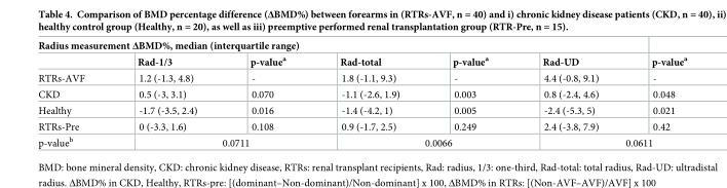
<table><thead><tr><td colspan="6">Radius measurement ΔBMD%, median (interquartile range)</td><td rowspan="2">p-value<sup>a</sup></td></tr><tr><td></td><td>Rad-1/3</td><td>p-value<sup>a</sup></td><td>Rad-total</td><td>p-value<sup>a</sup></td><td>Rad-UD</td></tr></thead><tbody><tr><td>RTRs-AVF</td><td>1.2 (-1.3, 4.8)</td><td>-</td><td>1.8 (-1.1, 9.3)</td><td>-</td><td>4.4 (-0.8, 9.1)</td><td>-</td></tr><tr><td>CKD</td><td>0.5 (-3, 3.1)</td><td>0.070</td><td>-1.1 (-2.6, 1.9)</td><td>0.003</td><td>0.8 (-2.4, 4.6)</td><td>0.048</td></tr><tr><td>Healthy</td><td>-1.7 (-3.5, 2.4)</td><td>0.016</td><td>-1.4 (-4.2, 1)</td><td>0.005</td><td>-2.4 (-5.3, 5)</td><td>0.021</td></tr><tr><td>RTRs-Pre</td><td>0 (-3.3, 1.6)</td><td>0.108</td><td>0.9 (-1.7, 2.5)</td><td>0.249</td><td>2.4 (-3.8, 7.9)</td><td>0.42</td></tr><tr><td>p-value<sup>b</sup></td><td colspan="2">0.0711</td><td colspan="2">0.0066</td><td colspan="2">0.0611</td></tr></tbody></table>